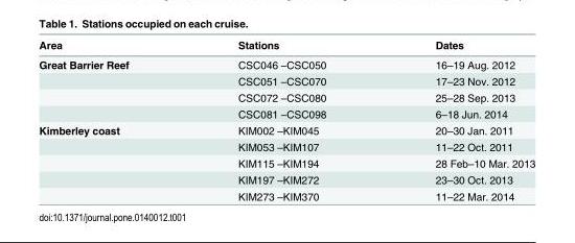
<table><thead><tr><td>Area</td><td>Stations</td><td>Dates</td></tr></thead><tbody><tr><td rowspan="4">Great Barrier Reef</td><td>CSC046 –CSC050</td><td>16–19 Aug. 2012</td></tr><tr><td>CSC051 –CSC070</td><td>17–23 Nov. 2012</td></tr><tr><td>CSC072 –CSC080</td><td>25–28 Sep. 2013</td></tr><tr><td>CSC081 –CSC098</td><td>6–18 Jun. 2014</td></tr><tr><td rowspan="5">Kimberley coast</td><td>KIM002 –KIM045</td><td>20–30 Jan. 2011</td></tr><tr><td>KIM053 –KIM107</td><td>11–22 Oct. 2011</td></tr><tr><td>KIM115 –KIM194</td><td>28 Feb–10 Mar. 2013</td></tr><tr><td>KIM197 –KIM272</td><td>23–30 Oct. 2013</td></tr><tr><td>KIM273 –KIM370</td><td>11–22 Mar. 2014</td></tr></tbody></table>